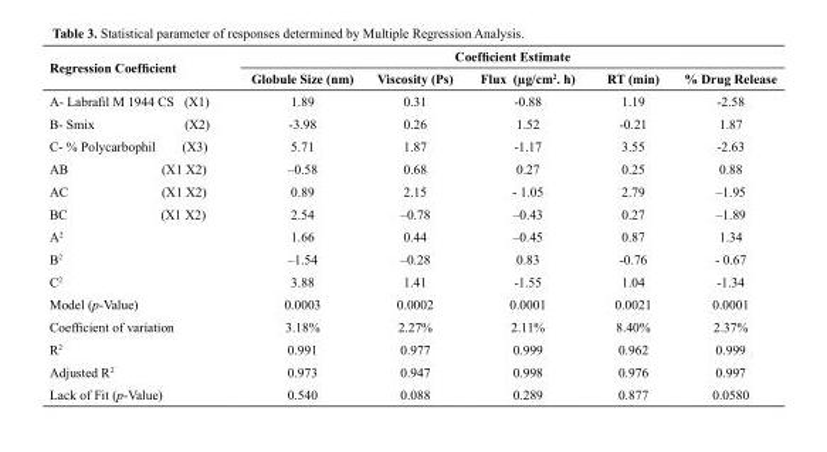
<table><thead><tr><td rowspan="2">Regression Coefficient</td><td colspan="5">Coefficient Estimate</td></tr><tr><td>Globule Size (nm)</td><td>Viscosity (Ps)</td><td>Flux (µg/cm<sup>2</sup>. h)</td><td>RT (min)</td><td>% Drug Release</td></tr></thead><tbody><tr><td>A- Labrafil M 1944 CS (X1)</td><td>1.89</td><td>0.31</td><td>-0.88</td><td>1.19</td><td>-2.58</td></tr><tr><td>B- Smix (X2)</td><td>-3.98</td><td>0.26</td><td>1.52</td><td>-0.21</td><td>1.87</td></tr><tr><td>C- % Polycarbophil (X3)</td><td>5.71</td><td>1.87</td><td>-1.17</td><td>3.55</td><td>-2.63</td></tr><tr><td>AB (X1 X2)</td><td>–0.58</td><td>0.68</td><td>0.27</td><td>0.25</td><td>0.88</td></tr><tr><td>AC (X1 X2)</td><td>0.89</td><td>2.15</td><td>- 1.05</td><td>2.79</td><td>–1.95</td></tr><tr><td>BC (X1 X2)</td><td>2.54</td><td>–0.78</td><td>–0.43</td><td>0.27</td><td>–1.89</td></tr><tr><td>A<sup>2</sup></td><td>1.66</td><td>0.44</td><td>–0.45</td><td>0.87</td><td>1.34</td></tr><tr><td>B<sup>2</sup></td><td>–1.54</td><td>–0.28</td><td>0.83</td><td>-0.76</td><td>- 0.67</td></tr><tr><td>C<sup>2</sup></td><td>3.88</td><td>1.41</td><td>-1.55</td><td>1.04</td><td>-1.34</td></tr><tr><td>Model (p-Value)</td><td>0.0003</td><td>0.0002</td><td>0.0001</td><td>0.0021</td><td>0.0001</td></tr><tr><td>Coefficient of variation</td><td>3.18%</td><td>2.27%</td><td>2.11%</td><td>8.40%</td><td>2.37%</td></tr><tr><td>R<sup>2</sup></td><td>0.991</td><td>0.977</td><td>0.999</td><td>0.962</td><td>0.999</td></tr><tr><td>Adjusted R<sup>2</sup></td><td>0.973</td><td>0.947</td><td>0.998</td><td>0.976</td><td>0.997</td></tr><tr><td>Lack of Fit (p-Value)</td><td>0.540</td><td>0.088</td><td>0.289</td><td>0.877</td><td>0.0580</td></tr></tbody></table>